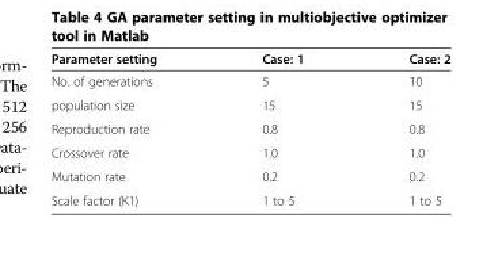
<table><thead><tr><td>Parameter setting</td><td>Case: 1</td><td>Case: 2</td></tr></thead><tbody><tr><td>No. of generations</td><td>5</td><td>10</td></tr><tr><td>population size</td><td>15</td><td>15</td></tr><tr><td>Reproduction rate</td><td>0.8</td><td>0.8</td></tr><tr><td>Crossover rate</td><td>1.0</td><td>1.0</td></tr><tr><td>Mutation rate</td><td>0.2</td><td>0.2</td></tr><tr><td>Scale factor (K1)</td><td>1 to 5</td><td>1 to 5</td></tr></tbody></table>